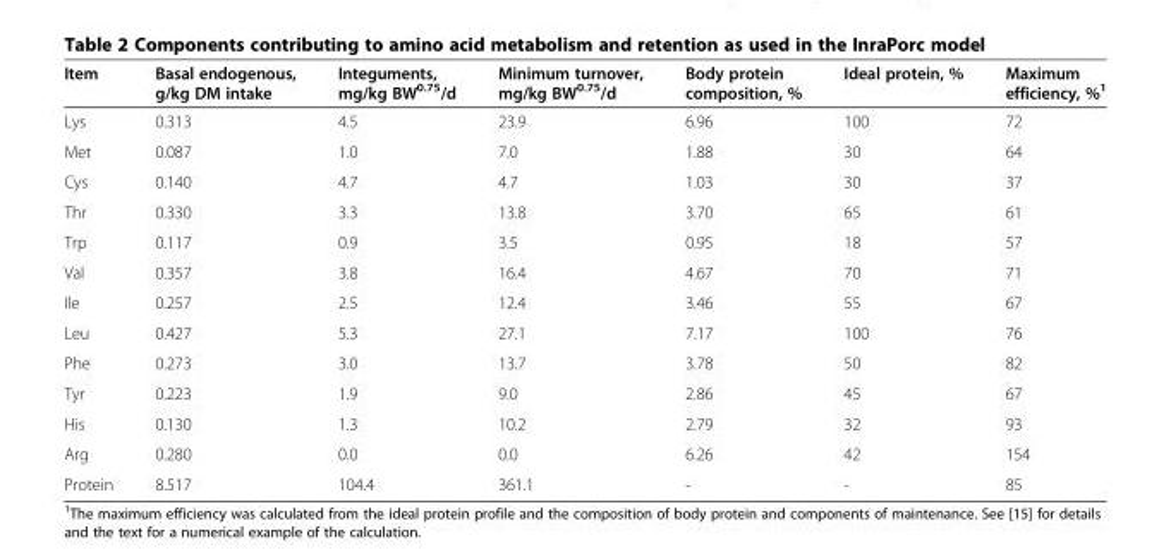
<table><thead><tr><td>Item</td><td>Basal endogenous, g/kg DM intake</td><td>Integuments, mg/kg BW<sup>0.75</sup>/d</td><td>Minimum turnover, mg/kg BW<sup>0.75</sup>/d</td><td>Body protein composition, %</td><td>Ideal protein, %</td><td>Maximum efficiency, %<sup>1</sup></td></tr></thead><tbody><tr><td>Lys</td><td>0.313</td><td>4.5</td><td>23.9</td><td>6.96</td><td>100</td><td>72</td></tr><tr><td>Met</td><td>0.087</td><td>1.0</td><td>7.0</td><td>1.88</td><td>30</td><td>64</td></tr><tr><td>Cys</td><td>0.140</td><td>4.7</td><td>4.7</td><td>1.03</td><td>30</td><td>37</td></tr><tr><td>Thr</td><td>0.330</td><td>3.3</td><td>13.8</td><td>3.70</td><td>65</td><td>61</td></tr><tr><td>Trp</td><td>0.117</td><td>0.9</td><td>3.5</td><td>0.95</td><td>18</td><td>57</td></tr><tr><td>Val</td><td>0.357</td><td>3.8</td><td>16.4</td><td>4.67</td><td>70</td><td>71</td></tr><tr><td>Ile</td><td>0.257</td><td>2.5</td><td>12.4</td><td>3.46</td><td>55</td><td>67</td></tr><tr><td>Leu</td><td>0.427</td><td>5.3</td><td>27.1</td><td>7.17</td><td>100</td><td>76</td></tr><tr><td>Phe</td><td>0.273</td><td>3.0</td><td>13.7</td><td>3.78</td><td>50</td><td>82</td></tr><tr><td>Tyr</td><td>0.223</td><td>1.9</td><td>9.0</td><td>2.86</td><td>45</td><td>67</td></tr><tr><td>His</td><td>0.130</td><td>1.3</td><td>10.2</td><td>2.79</td><td>32</td><td>93</td></tr><tr><td>Arg</td><td>0.280</td><td>0.0</td><td>0.0</td><td>6.26</td><td>42</td><td>154</td></tr><tr><td>Protein</td><td>8.517</td><td>104.4</td><td>361.1</td><td>-</td><td>-</td><td>85</td></tr></tbody></table>